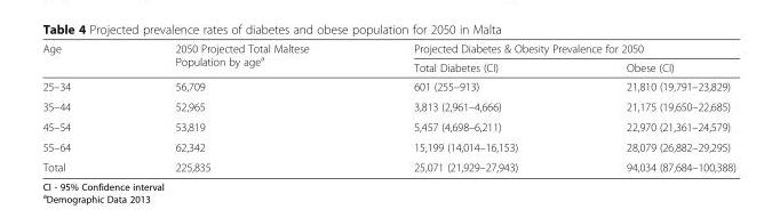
<table><thead><tr><td rowspan="2">Age</td><td rowspan="2">2050 Projected Total Maltese Population by age<sup>a</sup></td><td colspan="2">Projected Diabetes &amp; Obesity Prevalence for 2050</td></tr><tr><td>Total Diabetes (CI)</td><td>Obese (CI)</td></tr></thead><tbody><tr><td>25–34</td><td>56,709</td><td>601 (255–913)</td><td>21,810 (19,791–23,829)</td></tr><tr><td>35–44</td><td>52,965</td><td>3,813 (2,961–4,666)</td><td>21,175 (19,650–22,685)</td></tr><tr><td>45–54</td><td>53,819</td><td>5,457 (4,698–6,211)</td><td>22,970 (21,361–24,579)</td></tr><tr><td>55–64</td><td>62,342</td><td>15,199 (14,014–16,153)</td><td>28,079 (26,882–29,295)</td></tr><tr><td>Total</td><td>225,835</td><td>25,071 (21,929–27,943)</td><td>94,034 (87,684–100,388)</td></tr></tbody></table>